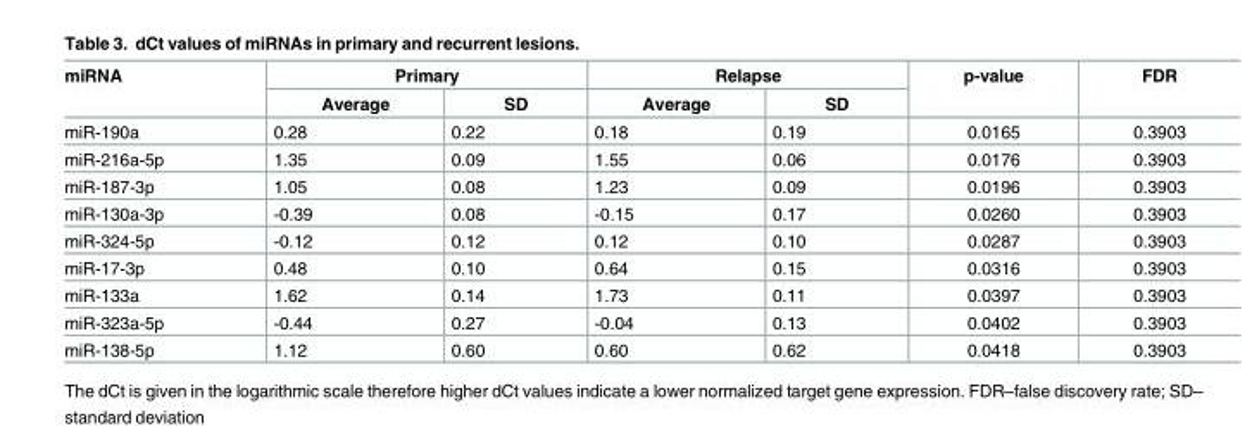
<table><thead><tr><td rowspan="2">miRNA</td><td colspan="2">Primary</td><td colspan="2">Relapse</td><td rowspan="2">p-value</td><td rowspan="2">FDR</td></tr><tr><td>Average</td><td>SD</td><td>Average</td><td>SD</td></tr></thead><tbody><tr><td>miR-190a</td><td>0.28</td><td>0.22</td><td>0.18</td><td>0.19</td><td>0.0165</td><td>0.3903</td></tr><tr><td>miR-216a-5p</td><td>1.35</td><td>0.09</td><td>1.55</td><td>0.06</td><td>0.0176</td><td>0.3903</td></tr><tr><td>miR-187-3p</td><td>1.05</td><td>0.08</td><td>1.23</td><td>0.09</td><td>0.0196</td><td>0.3903</td></tr><tr><td>miR-130a-3p</td><td>-0.39</td><td>0.08</td><td>-0.15</td><td>0.17</td><td>0.0260</td><td>0.3903</td></tr><tr><td>miR-324-5p</td><td>-0.12</td><td>0.12</td><td>0.12</td><td>0.10</td><td>0.0287</td><td>0.3903</td></tr><tr><td>miR-17-3p</td><td>0.48</td><td>0.10</td><td>0.64</td><td>0.15</td><td>0.0316</td><td>0.3903</td></tr><tr><td>miR-133a</td><td>1.62</td><td>0.14</td><td>1.73</td><td>0.11</td><td>0.0397</td><td>0.3903</td></tr><tr><td>miR-323a-5p</td><td>-0.44</td><td>0.27</td><td>-0.04</td><td>0.13</td><td>0.0402</td><td>0.3903</td></tr><tr><td>miR-138-5p</td><td>1.12</td><td>0.60</td><td>0.60</td><td>0.62</td><td>0.0418</td><td>0.3903</td></tr></tbody></table>